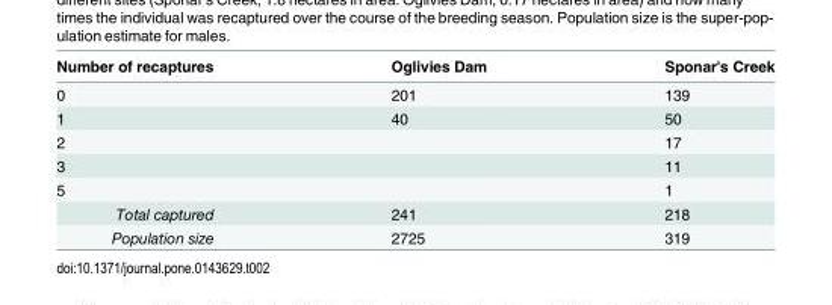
<table><thead><tr><td>Number of recaptures</td><td>Oglivies Dam</td><td>Sponar&#x27;s Creek</td></tr></thead><tbody><tr><td>0</td><td>201</td><td>139</td></tr><tr><td>1</td><td>40</td><td>50</td></tr><tr><td>2</td><td></td><td>17</td></tr><tr><td>3</td><td></td><td>11</td></tr><tr><td>5</td><td></td><td>1</td></tr><tr><td>Total captured</td><td>241</td><td>218</td></tr><tr><td>Population size</td><td>2725</td><td>319</td></tr></tbody></table>